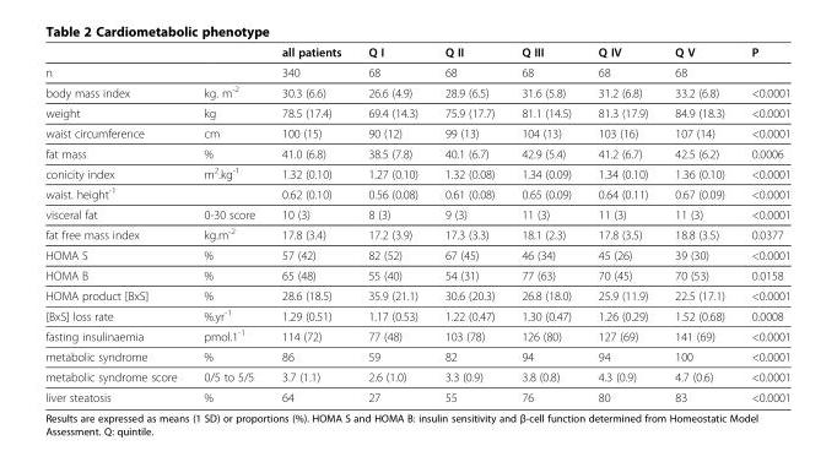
<table><thead><tr><td></td><td></td><td>all patients</td><td>Q I</td><td>Q II</td><td>Q III</td><td>Q IV</td><td>Q V</td><td>P</td></tr></thead><tbody><tr><td>n</td><td></td><td>340</td><td>68</td><td>68</td><td>68</td><td>68</td><td>68</td><td></td></tr><tr><td>body mass index</td><td>kg. m<sup>-2</sup></td><td>30.3 (6.6)</td><td>26.6 (4.9)</td><td>28.9 (6.5)</td><td>31.6 (5.8)</td><td>31.2 (6.8)</td><td>33.2 (6.8)</td><td>&lt;0.0001</td></tr><tr><td>weight</td><td>kg</td><td>78.5 (17.4)</td><td>69.4 (14.3)</td><td>75.9 (17.7)</td><td>81.1 (14.5)</td><td>81.3 (17.9)</td><td>84.9 (18.3)</td><td>&lt;0.0001</td></tr><tr><td>waist circumference</td><td>cm</td><td>100 (15)</td><td>90 (12)</td><td>99 (13)</td><td>104 (13)</td><td>103 (16)</td><td>107 (14)</td><td>&lt;0.0001</td></tr><tr><td>fat mass</td><td>%</td><td>41.0 (6.8)</td><td>38.5 (7.8)</td><td>40.1 (6.7)</td><td>42.9 (5.4)</td><td>41.2 (6.7)</td><td>42.5 (6.2)</td><td>0.0006</td></tr><tr><td>conicity index</td><td>m<sup>2</sup>.kg<sup>-1</sup></td><td>1.32 (0.10)</td><td>1.27 (0.10)</td><td>1.32 (0.08)</td><td>1.34 (0.09)</td><td>1.34 (0.10)</td><td>1.36 (0.10)</td><td>&lt;0.0001</td></tr><tr><td>waist. height<sup>-1</sup></td><td></td><td>0.62 (0.10)</td><td>0.56 (0.08)</td><td>0.61 (0.08)</td><td>0.65 (0.09)</td><td>0.64 (0.11)</td><td>0.67 (0.09)</td><td>&lt;0.0001</td></tr><tr><td>visceral fat</td><td>0-30 score</td><td>10 (3)</td><td>8 (3)</td><td>9 (3)</td><td>11 (3)</td><td>11 (3)</td><td>11 (3)</td><td>&lt;0.0001</td></tr><tr><td>fat free mass index</td><td>kg.m<sup>-2</sup></td><td>17.8 (3.4)</td><td>17.2 (3.9)</td><td>17.3 (3.3)</td><td>18.1 (2.3)</td><td>17.8 (3.5)</td><td>18.8 (3.5)</td><td>0.0377</td></tr><tr><td>HOMA S</td><td>%</td><td>57 (42)</td><td>82 (52)</td><td>67 (45)</td><td>46 (34)</td><td>45 (26)</td><td>39 (30)</td><td>&lt;0.0001</td></tr><tr><td>HOMA B</td><td>%</td><td>65 (48)</td><td>55 (40)</td><td>54 (31)</td><td>77 (63)</td><td>70 (45)</td><td>70 (53)</td><td>0.0158</td></tr><tr><td>HOMA product [BxS]</td><td>%</td><td>28.6 (18.5)</td><td>35.9 (21.1)</td><td>30.6 (20.3)</td><td>26.8 (18.0)</td><td>25.9 (11.9)</td><td>22.5 (17.1)</td><td>&lt;0.0001</td></tr><tr><td>[BxS] loss rate</td><td>%.yr<sup>-1</sup></td><td>1.29 (0.51)</td><td>1.17 (0.53)</td><td>1.22 (0.47)</td><td>1.30 (0.47)</td><td>1.26 (0.29)</td><td>1.52 (0.68)</td><td>0.0008</td></tr><tr><td>fasting insulinaemia</td><td>pmol.1<sup>-1</sup></td><td>114 (72)</td><td>77 (48)</td><td>103 (78)</td><td>126 (80)</td><td>127 (69)</td><td>141 (69)</td><td>&lt;0.0001</td></tr><tr><td>metabolic syndrome</td><td>%</td><td>86</td><td>59</td><td>82</td><td>94</td><td>94</td><td>100</td><td>&lt;0.0001</td></tr><tr><td>metabolic syndrome score</td><td>0/5 to 5/5</td><td>3.7 (1.1)</td><td>2.6 (1.0)</td><td>3.3 (0.9)</td><td>3.8 (0.8)</td><td>4.3 (0.9)</td><td>4.7 (0.6)</td><td>&lt;0.0001</td></tr><tr><td>liver steatosis</td><td>%</td><td>64</td><td>27</td><td>55</td><td>76</td><td>80</td><td>83</td><td>&lt;0.0001</td></tr></tbody></table>